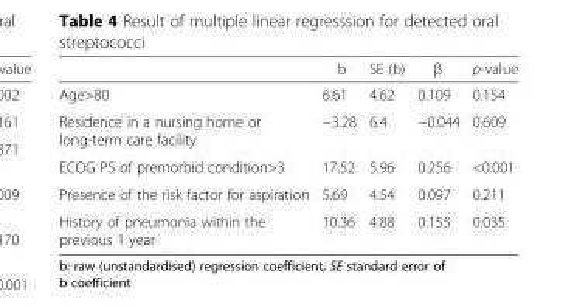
<table><thead><tr><td></td><td>b</td><td>SE (b)</td><td>β</td><td>p-value</td></tr></thead><tbody><tr><td>Age&gt;80</td><td>6.61</td><td>4.62</td><td>0.109</td><td>0.154</td></tr><tr><td>Residence in a nursing home or long-term care facility</td><td>−3.28</td><td>6.4</td><td>−0.044</td><td>0.609</td></tr><tr><td>ECOG PS of premorbid condition&gt;3</td><td>17.52</td><td>5.96</td><td>0.256</td><td>&lt;0.001</td></tr><tr><td>Presence of the risk factor for aspiration</td><td>5.69</td><td>4.54</td><td>0.097</td><td>0.211</td></tr><tr><td>History of pneumonia within the previous 1 year</td><td>10.36</td><td>4.88</td><td>0.155</td><td>0.035</td></tr></tbody></table>